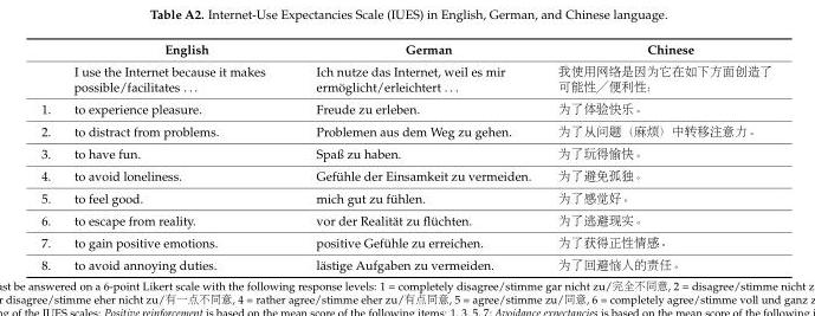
<table><thead><tr><td></td><td>English</td><td>German</td><td>Chinese</td></tr></thead><tbody><tr><td></td><td>I use the Internet because it makes possible/facilitates . . .</td><td>Ich nutze das Internet, weil es mir ermöglicht/erleichtert . . .</td><td>我使用网络是因为它在如下方面创造了 可能性／便利性：</td></tr><tr><td>1.</td><td>to experience pleasure.</td><td>Freude zu erleben.</td><td>为了体验快乐。</td></tr><tr><td>2.</td><td>to distract from problems.</td><td>Problemen aus dem Weg zu gehen.</td><td>为了从问题（麻烦）中转移注意力。</td></tr><tr><td>3.</td><td>to have fun.</td><td>Spaß zu haben.</td><td>为了玩得愉快。</td></tr><tr><td>4.</td><td>to avoid loneliness.</td><td>Gefühle der Einsamkeit zu vermeiden.</td><td>为了避免孤独。</td></tr><tr><td>5.</td><td>to feel good.</td><td>mich gut zu fühlen.</td><td>为了感觉好。</td></tr><tr><td>6.</td><td>to escape from reality.</td><td>vor der Realität zu flüchten.</td><td>为了逃避现实。</td></tr><tr><td>7.</td><td>to gain positive emotions.</td><td>positive Gefühle zu erreichen.</td><td>为了获得正性情感。</td></tr><tr><td>8.</td><td>to avoid annoying duties.</td><td>lästige Aufgaben zu vermeiden.</td><td>为了回避恼人的责任。</td></tr></tbody></table>